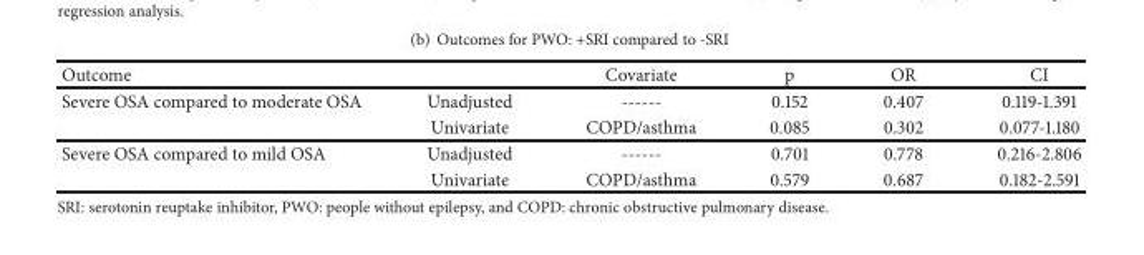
<table><thead><tr><td>Outcome</td><td></td><td>Covariate</td><td>p</td><td>OR</td><td>CI</td></tr></thead><tbody><tr><td rowspan="2">Severe OSA compared to moderate OSA</td><td>Unadjusted</td><td>------</td><td>0.152</td><td>0.407</td><td>0.119-1.391</td></tr><tr><td>Univariate</td><td>COPD/asthma</td><td>0.085</td><td>0.302</td><td>0.077-1.180</td></tr><tr><td rowspan="2">Severe OSA compared to mild OSA</td><td>Unadjusted</td><td>------</td><td>0.701</td><td>0.778</td><td>0.216-2.806</td></tr><tr><td>Univariate</td><td>COPD/asthma</td><td>0.579</td><td>0.687</td><td>0.182-2.591</td></tr></tbody></table>